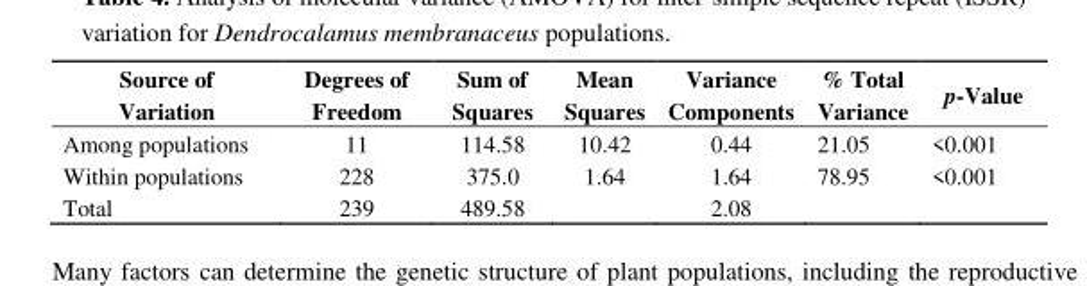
<table><thead><tr><td>Source of Variation</td><td>Degrees of Freedom</td><td>Sum of Squares</td><td>Mean Squares</td><td>Variance Components</td><td>% Total Variance</td><td>p-Value</td></tr></thead><tbody><tr><td>Among populations</td><td>11</td><td>114.58</td><td>10.42</td><td>0.44</td><td>21.05</td><td>&lt;0.001</td></tr><tr><td>Within populations</td><td>228</td><td>375.0</td><td>1.64</td><td>1.64</td><td>78.95</td><td>&lt;0.001</td></tr><tr><td>Total</td><td>239</td><td>489.58</td><td></td><td>2.08</td><td></td><td></td></tr></tbody></table>